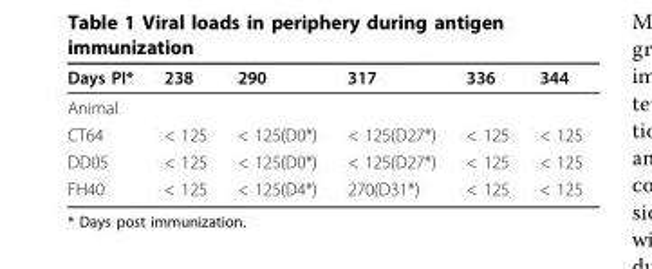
<table><thead><tr><td>Days PI*</td><td>238</td><td>290</td><td>317</td><td>336</td><td>344</td></tr></thead><tbody><tr><td colspan="6">Animal</td></tr><tr><td>CT64</td><td>&lt; 125</td><td>&lt; 125(D0*)</td><td>&lt; 125(D27*)</td><td>&lt; 125</td><td>&lt; 125</td></tr><tr><td>DD05</td><td>&lt; 125</td><td>&lt; 125(D0*)</td><td>&lt; 125(D27*)</td><td>&lt; 125</td><td>&lt; 125</td></tr><tr><td>FH40</td><td>&lt; 125</td><td>&lt; 125(D4*)</td><td>270(D31*)</td><td>&lt; 125</td><td>&lt; 125</td></tr></tbody></table>